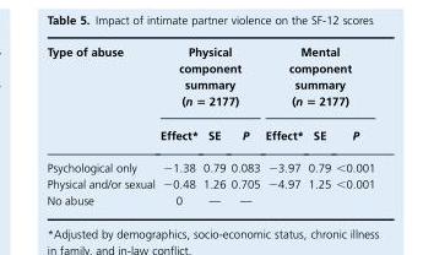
<table><thead><tr><td rowspan="2">Type of abuse</td><td colspan="3">Physical component summary (n = 2177)</td><td colspan="3">Mental component summary (n = 2177)</td></tr><tr><td>Effect*</td><td>SE</td><td>P</td><td>Effect*</td><td>SE</td><td>P</td></tr></thead><tbody><tr><td>Psychological only</td><td>−1.38</td><td>0.79</td><td>0.083</td><td>−3.97</td><td>0.79</td><td>&lt;0.001</td></tr><tr><td>Physical and/or sexual</td><td>−0.48</td><td>1.26</td><td>0.705</td><td>−4.97</td><td>1.25</td><td>&lt;0.001</td></tr><tr><td>No abuse</td><td>0</td><td>—</td><td>—</td><td colspan="3"></td></tr></tbody></table>